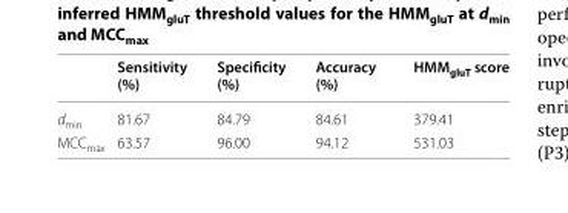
<table><thead><tr><td></td><td>Sensitivity (%)</td><td>Specificity (%)</td><td>Accuracy (%)</td><td>HMM<sub>gluT</sub> score</td></tr></thead><tbody><tr><td>d<sub>min</sub></td><td>81.67</td><td>84.79</td><td>84.61</td><td>379.41</td></tr><tr><td>MCC<sub>max</sub></td><td>63.57</td><td>96.00</td><td>94.12</td><td>531.03</td></tr></tbody></table>